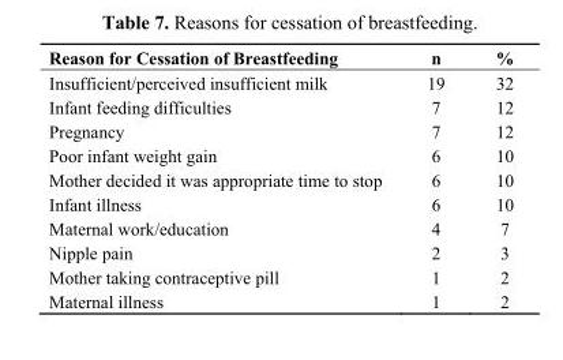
<table><thead><tr><td>Reason for Cessation of Breastfeeding</td><td>n</td><td>%</td></tr></thead><tbody><tr><td>Insufficient/perceived insufficient milk</td><td>19</td><td>32</td></tr><tr><td>Infant feeding difficulties</td><td>7</td><td>12</td></tr><tr><td>Pregnancy</td><td>7</td><td>12</td></tr><tr><td>Poor infant weight gain</td><td>6</td><td>10</td></tr><tr><td>Mother decided it was appropriate time to stop</td><td>6</td><td>10</td></tr><tr><td>Infant illness</td><td>6</td><td>10</td></tr><tr><td>Maternal work/education</td><td>4</td><td>7</td></tr><tr><td>Nipple pain</td><td>2</td><td>3</td></tr><tr><td>Mother taking contraceptive pill</td><td>1</td><td>2</td></tr><tr><td>Maternal illness</td><td>1</td><td>2</td></tr></tbody></table>